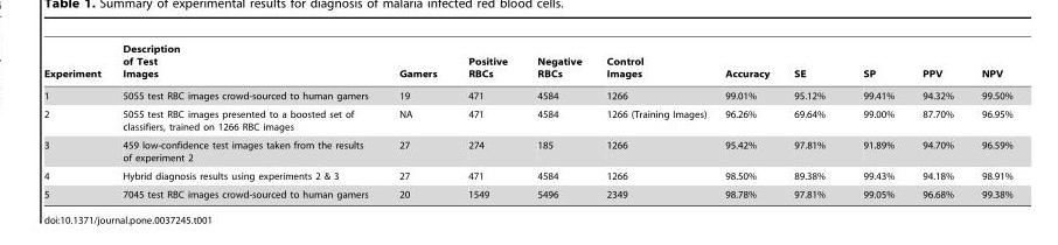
<table><thead><tr><td>Experiment</td><td>Description of Test Images</td><td>Gamers</td><td>Positive RBCs</td><td>Negative RBCs</td><td>Control Images</td><td>Accuracy</td><td>SE</td><td>SP</td><td>PPV</td><td>NPV</td></tr></thead><tbody><tr><td>1</td><td>5055 test RBC images crowd-sourced to human gamers</td><td>19</td><td>471</td><td>4584</td><td>1266</td><td>99.01%</td><td>95.12%</td><td>99.41%</td><td>94.32%</td><td>99.50%</td></tr><tr><td>2</td><td>5055 test RBC images presented to a boosted set of classifiers, trained on 1266 RBC images</td><td>NA</td><td>471</td><td>4584</td><td>1266 (Training Images)</td><td>96.26%</td><td>69.64%</td><td>99.00%</td><td>87.70%</td><td>96.95%</td></tr><tr><td>3</td><td>459 low-confidence test images taken from the results of experiment 2</td><td>27</td><td>274</td><td>185</td><td>1266</td><td>95.42%</td><td>97.81%</td><td>91.89%</td><td>94.70%</td><td>96.59%</td></tr><tr><td>4</td><td>Hybrid diagnosis results using experiments 2 &amp; 3</td><td>27</td><td>471</td><td>4584</td><td>1266</td><td>98.50%</td><td>89.38%</td><td>99.43%</td><td>94.18%</td><td>98.91%</td></tr><tr><td>5</td><td>7045 test RBC images crowd-sourced to human gamers</td><td>20</td><td>1549</td><td>5496</td><td>2349</td><td>98.78%</td><td>97.81%</td><td>99.05%</td><td>96.68%</td><td>99.38%</td></tr></tbody></table>